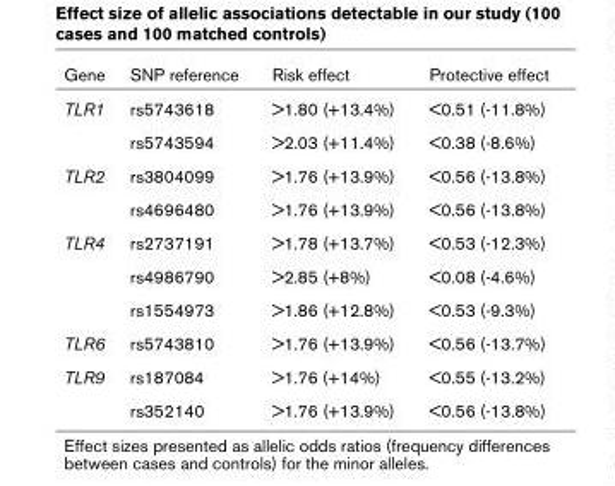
<table><thead><tr><td>Gene</td><td>SNP reference</td><td>Risk effect</td><td>Protective effect</td></tr></thead><tbody><tr><td rowspan="2">TLR1</td><td>rs5743618</td><td>&gt;1.80 (+13.4%)</td><td>&lt;0.51 (-11.8%)</td></tr><tr><td>rs5743594</td><td>&gt;2.03 (+11.4%)</td><td>&lt;0.38 (-8.6%)</td></tr><tr><td rowspan="2">TLR2</td><td>rs3804099</td><td>&gt;1.76 (+13.9%)</td><td>&lt;0.56 (-13.8%)</td></tr><tr><td>rs4696480</td><td>&gt;1.76 (+13.9%)</td><td>&lt;0.56 (-13.8%)</td></tr><tr><td rowspan="3">TLR4</td><td>rs2737191</td><td>&gt;1.78 (+13.7%)</td><td>&lt;0.53 (-12.3%)</td></tr><tr><td>rs4986790</td><td>&gt;2.85 (+8%)</td><td>&lt;0.08 (-4.6%)</td></tr><tr><td>rs1554973</td><td>&gt;1.86 (+12.8%)</td><td>&lt;0.53 (-9.3%)</td></tr><tr><td>TLR6</td><td>rs5743810</td><td>&gt;1.76 (+13.9%)</td><td>&lt;0.56 (-13.7%)</td></tr><tr><td rowspan="2">TLR9</td><td>rs187084</td><td>&gt;1.76 (+14%)</td><td>&lt;0.55 (-13.2%)</td></tr><tr><td>rs352140</td><td>&gt;1.76 (+13.9%)</td><td>&lt;0.56 (-13.8%)</td></tr></tbody></table>